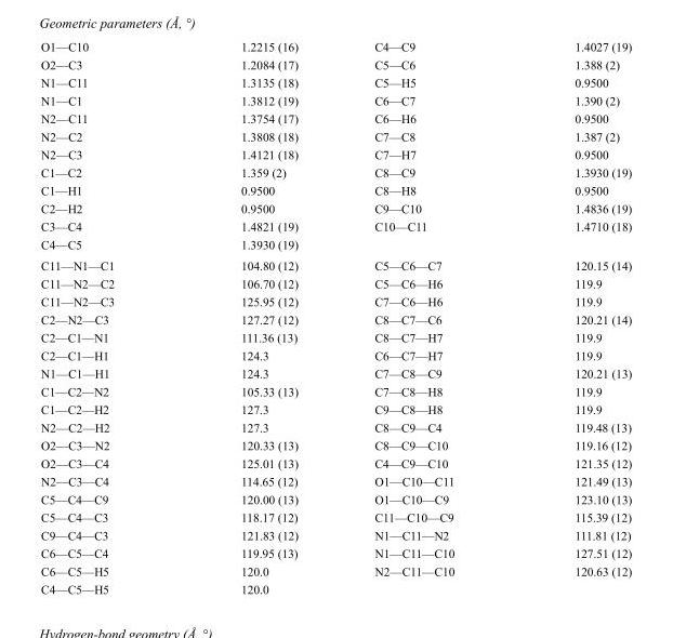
<table><tbody><tr><td>O1—C10</td><td>1.2215 (16)</td><td>C4—C9</td><td>1.4027 (19)</td></tr><tr><td>O2—C3</td><td>1.2084 (17)</td><td>C5—C6</td><td>1.388 (2)</td></tr><tr><td>N1—C11</td><td>1.3135 (18)</td><td>C5—H5</td><td>0.9500</td></tr><tr><td>N1—C1</td><td>1.3812 (19)</td><td>C6—C7</td><td>1.390 (2)</td></tr><tr><td>N2—C11</td><td>1.3754 (17)</td><td>C6—H6</td><td>0.9500</td></tr><tr><td>N2—C2</td><td>1.3808 (18)</td><td>C7—C8</td><td>1.387 (2)</td></tr><tr><td>N2—C3</td><td>1.4121 (18)</td><td>C7—H7</td><td>0.9500</td></tr><tr><td>C1—C2</td><td>1.359 (2)</td><td>C8—C9</td><td>1.3930 (19)</td></tr><tr><td>C1—H1</td><td>0.9500</td><td>C8—H8</td><td>0.9500</td></tr><tr><td>C2—H2</td><td>0.9500</td><td>C9—C10</td><td>1.4836 (19)</td></tr><tr><td>C3—C4</td><td>1.4821 (19)</td><td>C10—C11</td><td>1.4710 (18)</td></tr><tr><td>C4—C5</td><td>1.3930 (19)</td><td></td><td></td></tr><tr><td>C11—N1—C1</td><td>104.80 (12)</td><td>C5—C6—C7</td><td>120.15 (14)</td></tr><tr><td>C11—N2—C2</td><td>106.70 (12)</td><td>C5—C6—H6</td><td>119.9</td></tr><tr><td>C11—N2—C3</td><td>125.95 (12)</td><td>C7—C6—H6</td><td>119.9</td></tr><tr><td>C2—N2—C3</td><td>127.27 (12)</td><td>C8—C7—C6</td><td>120.21 (14)</td></tr><tr><td>C2—C1—N1</td><td>111.36 (13)</td><td>C8—C7—H7</td><td>119.9</td></tr><tr><td>C2—C1—H1</td><td>124.3</td><td>C6—C7—H7</td><td>119.9</td></tr><tr><td>N1—C1—H1</td><td>124.3</td><td>C7—C8—C9</td><td>120.21 (13)</td></tr><tr><td>C1—C2—N2</td><td>105.33 (13)</td><td>C7—C8—H8</td><td>119.9</td></tr><tr><td>C1—C2—H2</td><td>127.3</td><td>C9—C8—H8</td><td>119.9</td></tr><tr><td>N2—C2—H2</td><td>127.3</td><td>C8—C9—C4</td><td>119.48 (13)</td></tr><tr><td>O2—C3—N2</td><td>120.33 (13)</td><td>C8—C9—C10</td><td>119.16 (12)</td></tr><tr><td>O2—C3—C4</td><td>125.01 (13)</td><td>C4—C9—C10</td><td>121.35 (12)</td></tr><tr><td>N2—C3—C4</td><td>114.65 (12)</td><td>O1—C10—C11</td><td>121.49 (13)</td></tr><tr><td>C5—C4—C9</td><td>120.00 (13)</td><td>O1—C10—C9</td><td>123.10 (13)</td></tr><tr><td>C5—C4—C3</td><td>118.17 (12)</td><td>C11—C10—C9</td><td>115.39 (12)</td></tr><tr><td>C9—C4—C3</td><td>121.83 (12)</td><td>N1—C11—N2</td><td>111.81 (12)</td></tr><tr><td>C6—C5—C4</td><td>119.95 (13)</td><td>N1—C11—C10</td><td>127.51 (12)</td></tr><tr><td>C6—C5—H5</td><td>120.0</td><td>N2—C11—C10</td><td>120.63 (12)</td></tr><tr><td>C4—C5—H5</td><td>120.0</td><td></td><td></td></tr></tbody></table>